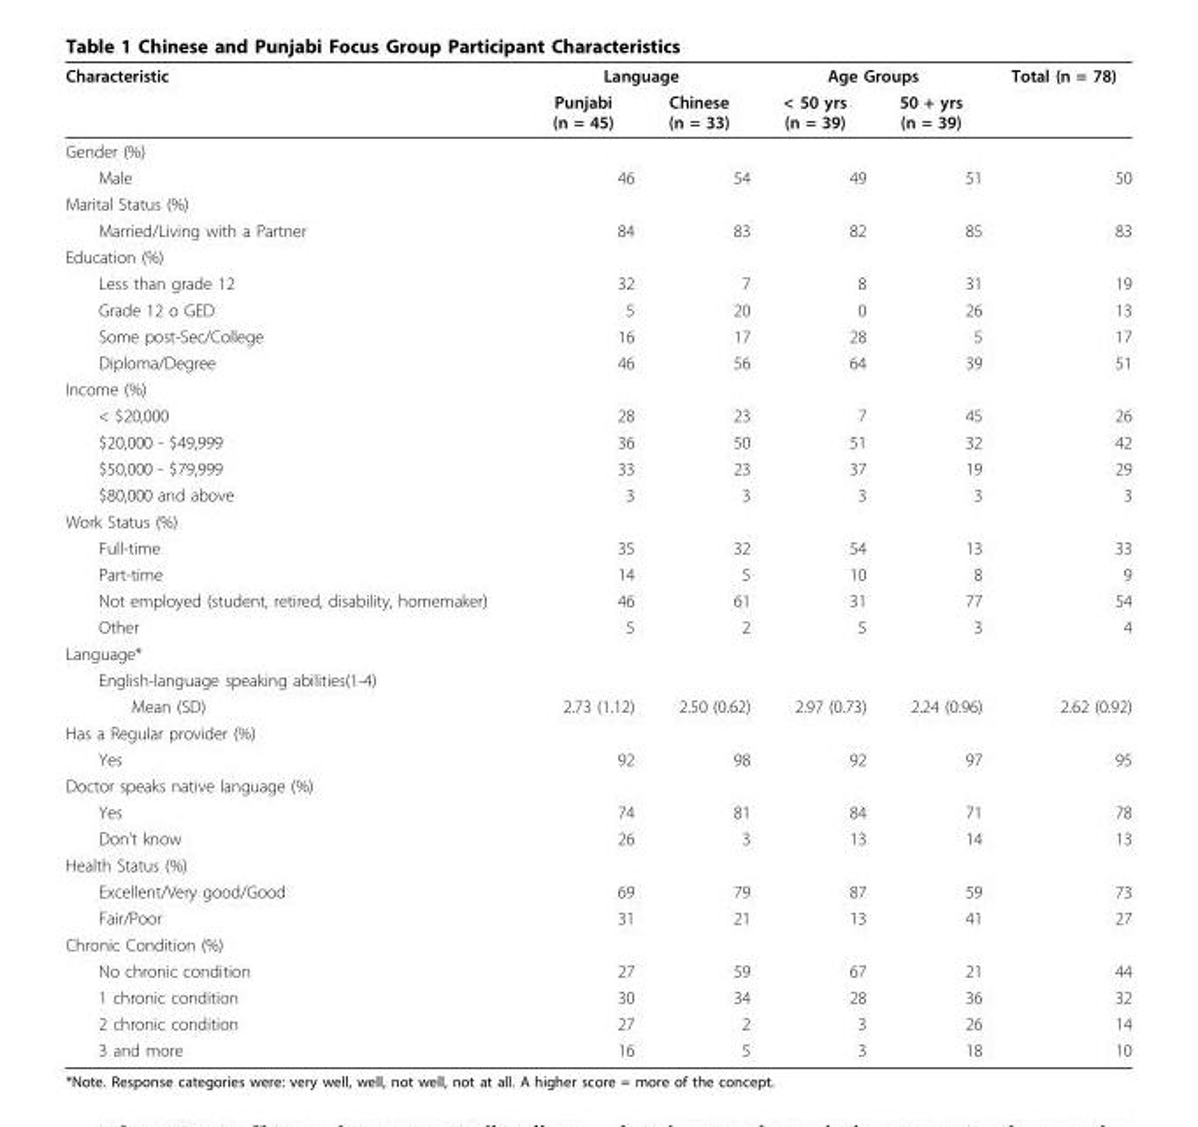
<table><thead><tr><td rowspan="2">Characteristic</td><td colspan="2">Language</td><td colspan="2">Age Groups</td><td rowspan="2">Total (n = 78)</td></tr><tr><td>Punjabi (n = 45)</td><td>Chinese (n = 33)</td><td>&lt; 50 yrs (n = 39)</td><td>50 + yrs (n = 39)</td></tr></thead><tbody><tr><td colspan="6">Gender (%)</td></tr><tr><td>Male</td><td>46</td><td>54</td><td>49</td><td>51</td><td>50</td></tr><tr><td colspan="6">Marital Status (%)</td></tr><tr><td>Married/Living with a Partner</td><td>84</td><td>83</td><td>82</td><td>85</td><td>83</td></tr><tr><td colspan="6">Education (%)</td></tr><tr><td>Less than grade 12</td><td>32</td><td>7</td><td>8</td><td>31</td><td>19</td></tr><tr><td>Grade 12 o GED</td><td>5</td><td>20</td><td>0</td><td>26</td><td>13</td></tr><tr><td>Some post-Sec/College</td><td>16</td><td>17</td><td>28</td><td>5</td><td>17</td></tr><tr><td>Diploma/Degree</td><td>46</td><td>56</td><td>64</td><td>39</td><td>51</td></tr><tr><td colspan="6">Income (%)</td></tr><tr><td>&lt; $20,000</td><td>28</td><td>23</td><td>7</td><td>45</td><td>26</td></tr><tr><td>$20,000 - $49,999</td><td>36</td><td>50</td><td>51</td><td>32</td><td>42</td></tr><tr><td>$50,000 - $79,999</td><td>33</td><td>23</td><td>37</td><td>19</td><td>29</td></tr><tr><td>$80,000 and above</td><td>3</td><td>3</td><td>3</td><td>3</td><td>3</td></tr><tr><td colspan="6">Work Status (%)</td></tr><tr><td>Full-time</td><td>35</td><td>32</td><td>54</td><td>13</td><td>33</td></tr><tr><td>Part-time</td><td>14</td><td>5</td><td>10</td><td>8</td><td>9</td></tr><tr><td>Not employed (student, retired, disability, homemaker)</td><td>46</td><td>61</td><td>31</td><td>77</td><td>54</td></tr><tr><td>Other</td><td>5</td><td>2</td><td>5</td><td>3</td><td>4</td></tr><tr><td colspan="6">Language*</td></tr><tr><td colspan="6">English-language speaking abilities(1-4)</td></tr><tr><td>Mean (SD)</td><td>2.73 (1.12)</td><td>2.50 (0.62)</td><td>2.97 (0.73)</td><td>2.24 (0.96)</td><td>2.62 (0.92)</td></tr><tr><td colspan="6">Has a Regular provider (%)</td></tr><tr><td>Yes</td><td>92</td><td>98</td><td>92</td><td>97</td><td>95</td></tr><tr><td colspan="6">Doctor speaks native language (%)</td></tr><tr><td>Yes</td><td>74</td><td>81</td><td>84</td><td>71</td><td>78</td></tr><tr><td>Don’t know</td><td>26</td><td>3</td><td>13</td><td>14</td><td>13</td></tr><tr><td colspan="6">Health Status (%)</td></tr><tr><td>Excellent/Very good/Good</td><td>69</td><td>79</td><td>87</td><td>59</td><td>73</td></tr><tr><td>Fair/Poor</td><td>31</td><td>21</td><td>13</td><td>41</td><td>27</td></tr><tr><td colspan="6">Chronic Condition (%)</td></tr><tr><td>No chronic condition</td><td>27</td><td>59</td><td>67</td><td>21</td><td>44</td></tr><tr><td>1 chronic condition</td><td>30</td><td>34</td><td>28</td><td>36</td><td>32</td></tr><tr><td>2 chronic condition</td><td>27</td><td>2</td><td>3</td><td>26</td><td>14</td></tr><tr><td>3 and more</td><td>16</td><td>5</td><td>3</td><td>18</td><td>10</td></tr></tbody></table>